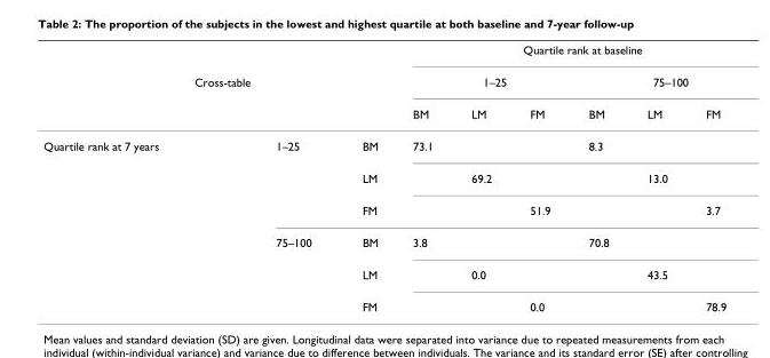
<table><thead><tr><td></td><td></td><td></td><td colspan="6">Quartile rank at baseline</td></tr><tr><td colspan="3">Cross-table</td><td colspan="3">1–25</td><td colspan="3">75–100</td></tr><tr><td></td><td></td><td></td><td>BM</td><td>LM</td><td>FM</td><td>BM</td><td>LM</td><td>FM</td></tr></thead><tbody><tr><td rowspan="6">Quartile rank at 7 years</td><td>1–25</td><td>BM</td><td>73.1</td><td></td><td></td><td>8.3</td><td></td><td></td></tr><tr><td></td><td>LM</td><td></td><td>69.2</td><td></td><td></td><td>13.0</td><td></td></tr><tr><td></td><td>FM</td><td></td><td></td><td>51.9</td><td></td><td></td><td>3.7</td></tr><tr><td>75–100</td><td>BM</td><td>3.8</td><td></td><td></td><td>70.8</td><td></td><td></td></tr><tr><td></td><td>LM</td><td></td><td>0.0</td><td></td><td></td><td>43.5</td><td></td></tr><tr><td></td><td>FM</td><td></td><td></td><td>0.0</td><td></td><td></td><td>78.9</td></tr></tbody></table>